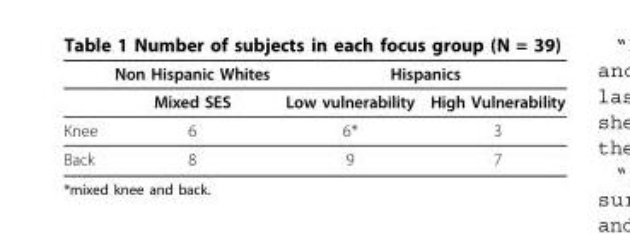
<table><thead><tr><td rowspan="2"></td><td rowspan="2">Non Hispanic Whites Mixed SES</td><td colspan="2">Hispanics</td></tr><tr><td>Low vulnerability</td><td>High Vulnerability</td></tr></thead><tbody><tr><td>Knee</td><td>6</td><td>6*</td><td>3</td></tr><tr><td>Back</td><td>8</td><td>9</td><td>7</td></tr></tbody></table>